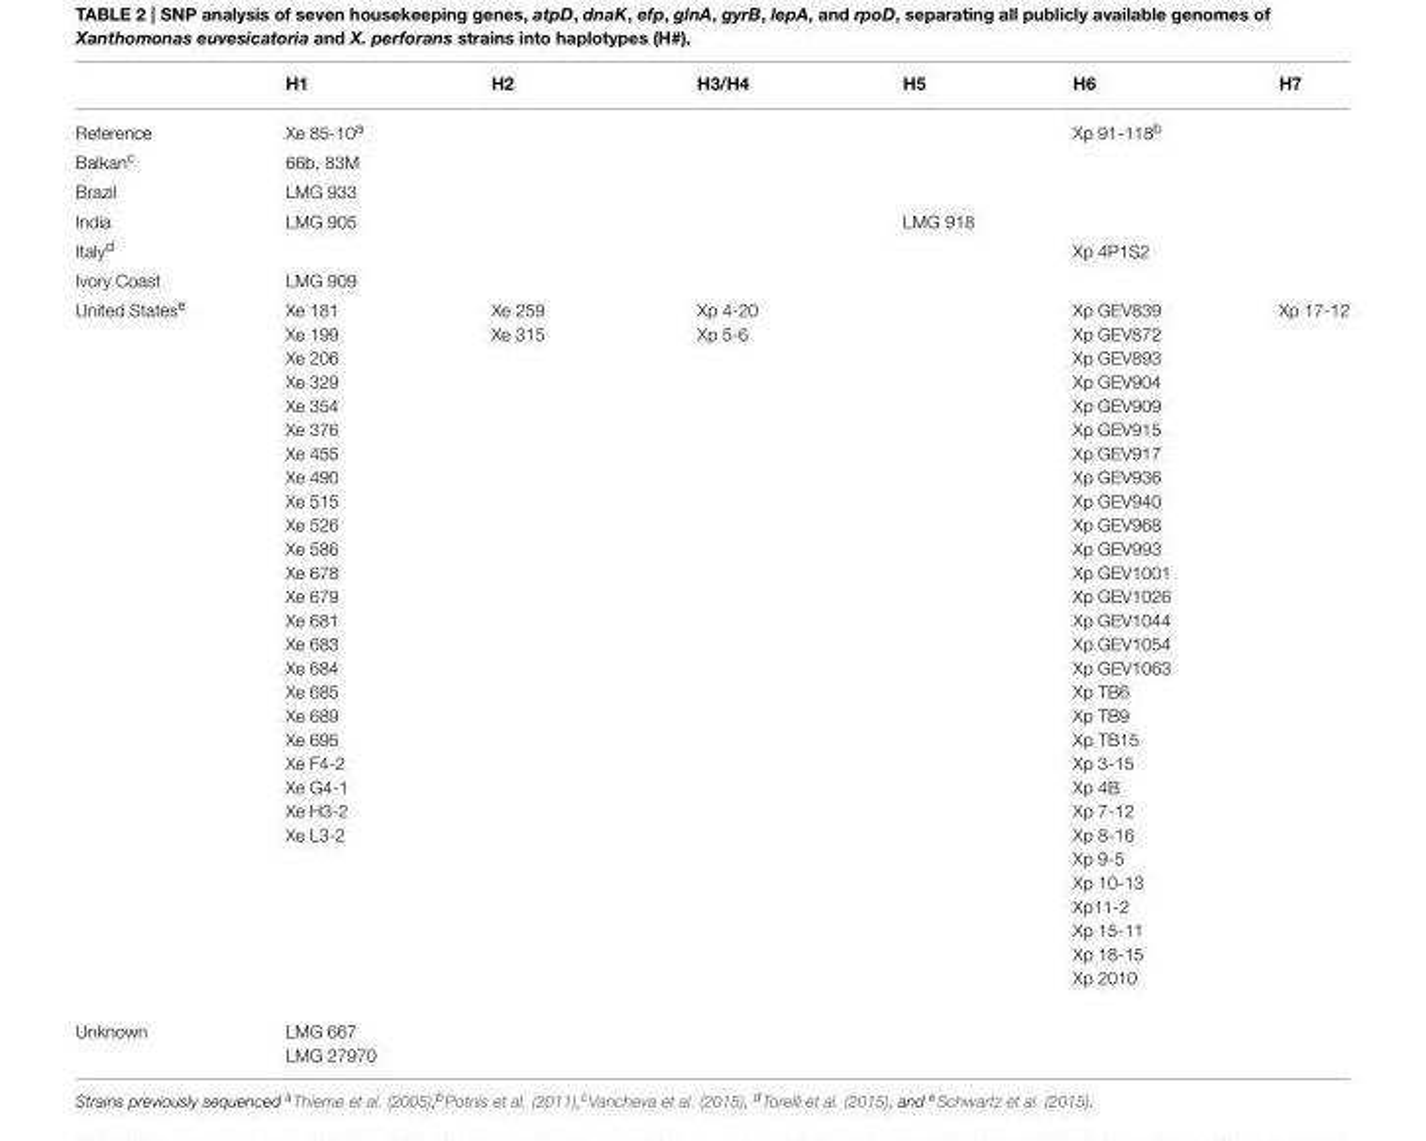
<table><thead><tr><td></td><td>H1</td><td>H2</td><td>H3/H4</td><td>H5</td><td>H6</td><td>H7</td></tr></thead><tbody><tr><td>Reference</td><td>Xe 85-10<sup>a</sup></td><td></td><td></td><td></td><td>Xp 91-118<sup>b</sup></td><td></td></tr><tr><td>Balkan<sup>c</sup></td><td>66b, 83M</td><td></td><td></td><td></td><td></td><td></td></tr><tr><td>Brazil</td><td>LMG 933</td><td></td><td></td><td></td><td></td><td></td></tr><tr><td>India</td><td>LMG 905</td><td></td><td></td><td>LMG 918</td><td></td><td></td></tr><tr><td>Italy<sup>d</sup></td><td></td><td></td><td></td><td></td><td>Xp 4P1S2</td><td></td></tr><tr><td>Ivory Coast</td><td>LMG 909</td><td></td><td></td><td></td><td></td><td></td></tr><tr><td>United States<sup>e</sup></td><td>Xe 181 Xe 199 Xe 206 Xe 329 Xe 354 Xe 376 Xe 455 Xe 490 Xe 515 Xe 526 Xe 586 Xe 678 Xe 679 Xe 681 Xe 683 Xe 684 Xe 685 Xe 689 Xe 695 Xe F4-2 Xe G4-1 Xe H3-2 Xe L3-2</td><td>Xe 259 Xe 315</td><td>Xp 4-20 Xp 5-6</td><td></td><td>Xp GEV839 Xp GEV872 Xp GEV893 Xp GEV904 Xp GEV909 Xp GEV915 Xp GEV917 Xp GEV936 Xp GEV940 Xp GEV968 Xp GEV993 Xp GEV1001 Xp GEV1026 Xp GEV1044 Xp GEV1054 Xp GEV1063 Xp TB6 Xp TB9 Xp TB15 Xp 3-15 Xp 4B Xp 7-12 Xp 8-16 Xp 9-5 Xp 10-13 Xp11-2 Xp 15-11 Xp 18-15 Xp 2010</td><td>Xp 17-12</td></tr><tr><td>Unknown</td><td>LMG 667 LMG 27970</td><td></td><td></td><td></td><td></td><td></td></tr></tbody></table>